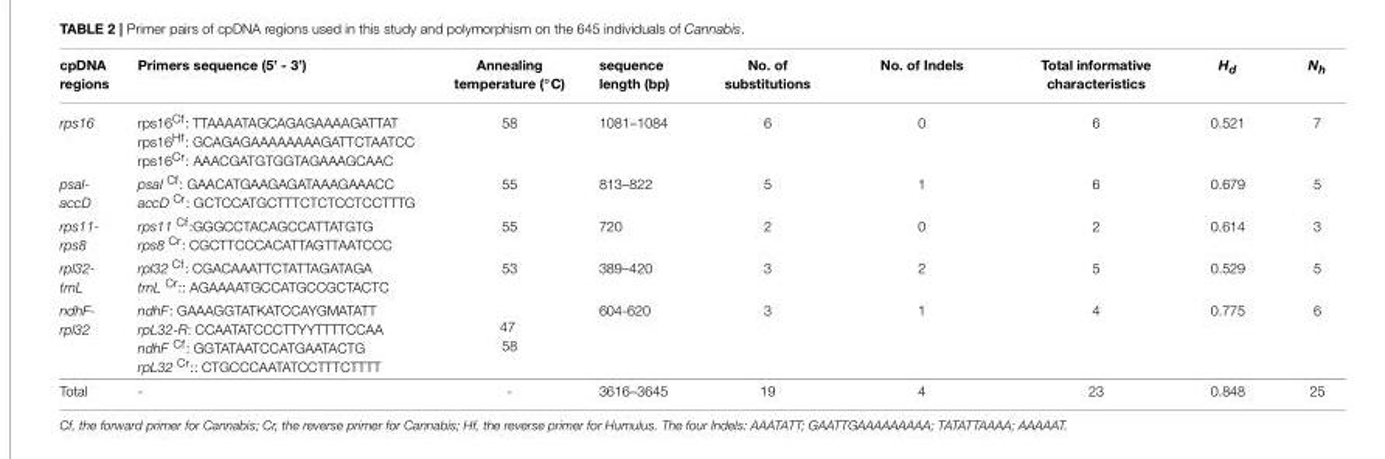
<table><thead><tr><td>cpDNA regions</td><td>Primers sequence (5’ - 3’)</td><td>Annealing temperature (◦C)</td><td>sequence length (bp)</td><td>No. of substitutions</td><td>No. of Indels</td><td>Total informative characteristics</td><td>Hd</td><td>Nh</td></tr></thead><tbody><tr><td>rps16</td><td>rps16<sup>Cf</sup>: TTAAAATAGCAGAGAAAAGATTAT rps16<sup>Hf</sup>: GCAGAGAAAAAAAAGATTCTAATCC rps16<sup>Cr</sup>: AAACGATGTGGTAGAAAGCAAC</td><td>58</td><td>1081–1084</td><td>6</td><td>0</td><td>6</td><td>0.521</td><td>7</td></tr><tr><td>psaI- accD</td><td>psaI <sup>Cf</sup>: GAACATGAAGAGATAAAGAAACC accD <sup>Cr</sup>: GCTCCATGCTTTCTCTCCTCCTTTG</td><td>55</td><td>813–822</td><td>5</td><td>1</td><td>6</td><td>0.679</td><td>5</td></tr><tr><td>rps11- rps8</td><td>rps11 <sup>Cf</sup>:GGGCCTACAGCCATTATGTG rps8 <sup>Cr</sup>: CGCTTCCCACATTAGTTAATCCC</td><td>55</td><td>720</td><td>2</td><td>0</td><td>2</td><td>0.614</td><td>3</td></tr><tr><td>rpl32- trnL</td><td>rpl32 <sup>Cf</sup>: CGACAAATTCTATTAGATAGA trnL <sup>Cr</sup>:: AGAAAATGCCATGCCGCTACTC</td><td>53</td><td>389–420</td><td>3</td><td>2</td><td>5</td><td>0.529</td><td>5</td></tr><tr><td>ndhF- rpl32</td><td>ndhF: GAAAGGTATKATCCAYGMATATT rpL32-R: CCAATATCCCTTYYTTTTCCAA ndhF <sup>Cf</sup>: GGTATAATCCATGAATACTG rpL32 <sup>Cr</sup>:: CTGCCCAATATCCTTTCTTTT</td><td>47 58</td><td>604-620</td><td>3</td><td>1</td><td>4</td><td>0.775</td><td>6</td></tr><tr><td>Total</td><td>-</td><td>-</td><td>3616–3645</td><td>19</td><td>4</td><td>23</td><td>0.848</td><td>25</td></tr></tbody></table>